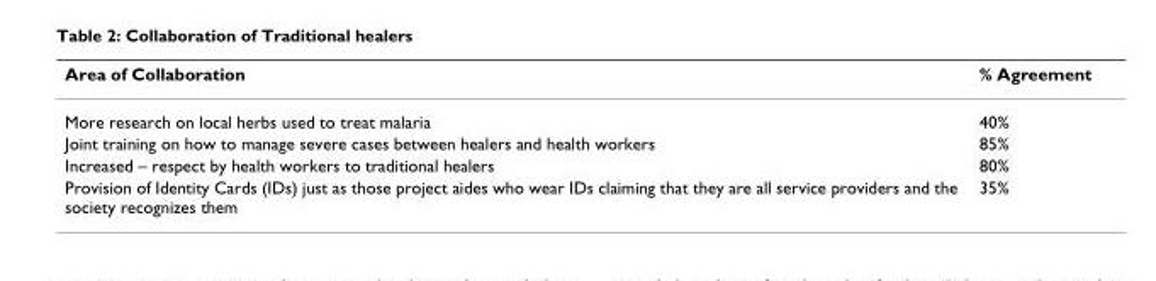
<table><thead><tr><td>Area of Collaboration</td><td>% Agreement</td></tr></thead><tbody><tr><td>More research on local herbs used to treat malaria</td><td>40%</td></tr><tr><td>Joint training on how to manage severe cases between healers and health workers</td><td>85%</td></tr><tr><td>Increased – respect by health workers to traditional healers</td><td>80%</td></tr><tr><td>Provision of Identity Cards (IDs) just as those project aides who wear IDs claiming that they are all service providers and the society recognizes them</td><td>35%</td></tr></tbody></table>